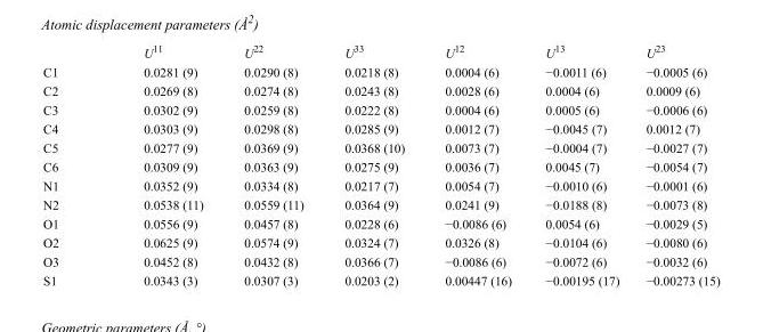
<table><thead><tr><td></td><td>U<sup>11</sup></td><td>U<sup>22</sup></td><td>U<sup>33</sup></td><td>U<sup>12</sup></td><td>U<sup>13</sup></td><td>U<sup>23</sup></td></tr></thead><tbody><tr><td>C1</td><td>0.0281 (9)</td><td>0.0290 (8)</td><td>0.0218 (8)</td><td>0.0004 (6)</td><td>−0.0011 (6)</td><td>−0.0005 (6)</td></tr><tr><td>C2</td><td>0.0269 (8)</td><td>0.0274 (8)</td><td>0.0243 (8)</td><td>0.0028 (6)</td><td>0.0004 (6)</td><td>0.0009 (6)</td></tr><tr><td>C3</td><td>0.0302 (9)</td><td>0.0259 (8)</td><td>0.0222 (8)</td><td>0.0004 (6)</td><td>0.0005 (6)</td><td>−0.0006 (6)</td></tr><tr><td>C4</td><td>0.0303 (9)</td><td>0.0298 (8)</td><td>0.0285 (9)</td><td>0.0012 (7)</td><td>−0.0045 (7)</td><td>0.0012 (7)</td></tr><tr><td>C5</td><td>0.0277 (9)</td><td>0.0369 (9)</td><td>0.0368 (10)</td><td>0.0073 (7)</td><td>−0.0004 (7)</td><td>−0.0027 (7)</td></tr><tr><td>C6</td><td>0.0309 (9)</td><td>0.0363 (9)</td><td>0.0275 (9)</td><td>0.0036 (7)</td><td>0.0045 (7)</td><td>−0.0054 (7)</td></tr><tr><td>N1</td><td>0.0352 (9)</td><td>0.0334 (8)</td><td>0.0217 (7)</td><td>0.0054 (7)</td><td>−0.0010 (6)</td><td>−0.0001 (6)</td></tr><tr><td>N2</td><td>0.0538 (11)</td><td>0.0559 (11)</td><td>0.0364 (9)</td><td>0.0241 (9)</td><td>−0.0188 (8)</td><td>−0.0073 (8)</td></tr><tr><td>O1</td><td>0.0556 (9)</td><td>0.0457 (8)</td><td>0.0228 (6)</td><td>−0.0086 (6)</td><td>0.0054 (6)</td><td>−0.0029 (5)</td></tr><tr><td>O2</td><td>0.0625 (9)</td><td>0.0574 (9)</td><td>0.0324 (7)</td><td>0.0326 (8)</td><td>−0.0104 (6)</td><td>−0.0080 (6)</td></tr><tr><td>O3</td><td>0.0452 (8)</td><td>0.0432 (8)</td><td>0.0366 (7)</td><td>−0.0086 (6)</td><td>−0.0072 (6)</td><td>−0.0032 (6)</td></tr><tr><td>S1</td><td>0.0343 (3)</td><td>0.0307 (3)</td><td>0.0203 (2)</td><td>0.00447 (16)</td><td>−0.00195 (17)</td><td>−0.00273 (15)</td></tr></tbody></table>